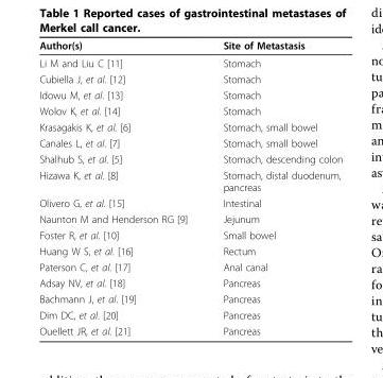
<table><thead><tr><td>Author(s)</td><td>Site of Metastasis</td></tr></thead><tbody><tr><td>Li M and Liu C [11]</td><td>Stomach</td></tr><tr><td>Cubiella J, et al. [12]</td><td>Stomach</td></tr><tr><td>Idowu M, et al. [13]</td><td>Stomach</td></tr><tr><td>Wolov K, et al. [14]</td><td>Stomach</td></tr><tr><td>Krasagakis K, et al. [6]</td><td>Stomach, small bowel</td></tr><tr><td>Canales L, et al. [7]</td><td>Stomach, small bowel</td></tr><tr><td>Shalhub S, et al. [5]</td><td>Stomach, descending colon</td></tr><tr><td>Hizawa K, et al. [8]</td><td>Stomach, distal duodenum, pancreas</td></tr><tr><td>Olivero G, et al. [15]</td><td>Intestinal</td></tr><tr><td>Naunton M and Henderson RG [9]</td><td>Jejunum</td></tr><tr><td>Foster R, et al. [10]</td><td>Small bowel</td></tr><tr><td>Huang W S, et al. [16]</td><td>Rectum</td></tr><tr><td>Paterson C, et al. [17]</td><td>Anal canal</td></tr><tr><td>Adsay NV, et al. [18]</td><td>Pancreas</td></tr><tr><td>Bachmann J, et al. [19]</td><td>Pancreas</td></tr><tr><td>Dim DC, et al. [20]</td><td>Pancreas</td></tr><tr><td>Ouellett JR, et al. [21]</td><td>Pancreas</td></tr></tbody></table>